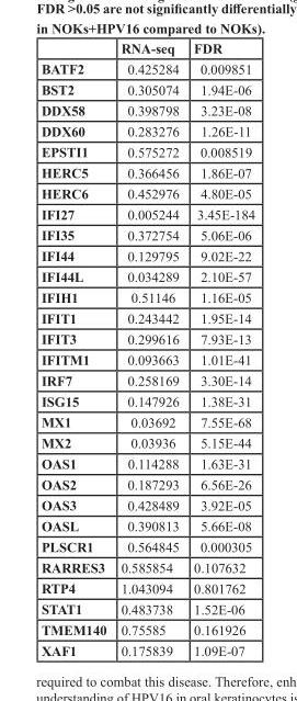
<table><thead><tr><td></td><td>RNA-seq</td><td>FDR</td></tr></thead><tbody><tr><td>BATF2</td><td>0.425284</td><td>0.009851</td></tr><tr><td>BST2</td><td>0.305074</td><td>1.94E-06</td></tr><tr><td>DDX58</td><td>0.398798</td><td>3.23E-08</td></tr><tr><td>DDX60</td><td>0.283276</td><td>1.26E-11</td></tr><tr><td>EPSTI1</td><td>0.575272</td><td>0.008519</td></tr><tr><td>HERC5</td><td>0.366456</td><td>1.86E-07</td></tr><tr><td>HERC6</td><td>0.452976</td><td>4.80E-05</td></tr><tr><td>IFI27</td><td>0.005244</td><td>3.45E-184</td></tr><tr><td>IFI35</td><td>0.372754</td><td>5.06E-06</td></tr><tr><td>IFI44</td><td>0.129795</td><td>9.02E-22</td></tr><tr><td>IFI44L</td><td>0.034289</td><td>2.10E-57</td></tr><tr><td>IFIH1</td><td>0.51146</td><td>1.16E-05</td></tr><tr><td>IFIT1</td><td>0.243442</td><td>1.95E-14</td></tr><tr><td>IFIT3</td><td>0.299616</td><td>7.93E-13</td></tr><tr><td>IFITM1</td><td>0.093663</td><td>1.01E-41</td></tr><tr><td>IRF7</td><td>0.258169</td><td>3.30E-14</td></tr><tr><td>ISG15</td><td>0.147926</td><td>1.38E-31</td></tr><tr><td>MX1</td><td>0.03692</td><td>7.55E-68</td></tr><tr><td>MX2</td><td>0.03936</td><td>5.15E-44</td></tr><tr><td>OAS1</td><td>0.114288</td><td>1.63E-31</td></tr><tr><td>OAS2</td><td>0.187293</td><td>6.56E-26</td></tr><tr><td>OAS3</td><td>0.428489</td><td>3.92E-05</td></tr><tr><td>OASL</td><td>0.390813</td><td>5.66E-08</td></tr><tr><td>PLSCR1</td><td>0.564845</td><td>0.000305</td></tr><tr><td>RARRES3</td><td>0.585854</td><td>0.107632</td></tr><tr><td>RTP4</td><td>1.043094</td><td>0.801762</td></tr><tr><td>STAT1</td><td>0.483738</td><td>1.52E-06</td></tr><tr><td>TMEM140</td><td>0.75585</td><td>0.161926</td></tr><tr><td>XAF1</td><td>0.175839</td><td>1.09E-07</td></tr></tbody></table>